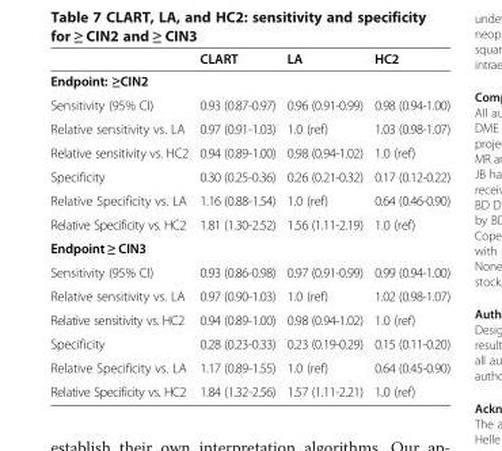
<table><thead><tr><td></td><td>CLART</td><td>LA</td><td>HC2</td></tr></thead><tbody><tr><td colspan="4">Endpoint: ≥CIN2</td></tr><tr><td>Sensitivity (95% CI)</td><td>0.93 (0.87-0.97)</td><td>0.96 (0.91-0.99)</td><td>0.98 (0.94-1.00)</td></tr><tr><td>Relative sensitivity vs. LA</td><td>0.97 (0.91-1.03)</td><td>1.0 (ref)</td><td>1.03 (0.98-1.07)</td></tr><tr><td>Relative sensitivity vs. HC2</td><td>0.94 (0.89-1.00)</td><td>0.98 (0.94-1.02)</td><td>1.0 (ref)</td></tr><tr><td>Specificity</td><td>0.30 (0.25-0.36)</td><td>0.26 (0.21-0.32)</td><td>0.17 (0.12-0.22)</td></tr><tr><td>Relative Specificity vs. LA</td><td>1.16 (0.88-1.54)</td><td>1.0 (ref)</td><td>0.64 (0.46-0.90)</td></tr><tr><td>Relative Specificity vs. HC2</td><td>1.81 (1.30-2.52)</td><td>1.56 (1.11-2.19)</td><td>1.0 (ref)</td></tr><tr><td colspan="4">Endpoint ≥ CIN3</td></tr><tr><td>Sensitivity (95% CI)</td><td>0.93 (0.86-0.98)</td><td>0.97 (0.91-0.99)</td><td>0.99 (0.94-1.00)</td></tr><tr><td>Relative sensitivity vs. LA</td><td>0.97 (0.90-1.03)</td><td>1.0 (ref)</td><td>1.02 (0.98-1.07)</td></tr><tr><td>Relative sensitivity vs. HC2</td><td>0.94 (0.89-1.00)</td><td>0.98 (0.94-1.02)</td><td>1.0 (ref)</td></tr><tr><td>Specificity</td><td>0.28 (0.23-0.33)</td><td>0.23 (0.19-0.29)</td><td>0.15 (0.11-0.20)</td></tr><tr><td>Relative Specificity vs. LA</td><td>1.17 (0.89-1.55)</td><td>1.0 (ref)</td><td>0.64 (0.45-0.90)</td></tr><tr><td>Relative Specificity vs. HC2</td><td>1.84 (1.32-2.56)</td><td>1.57 (1.11-2.21)</td><td>1.0 (ref)</td></tr></tbody></table>